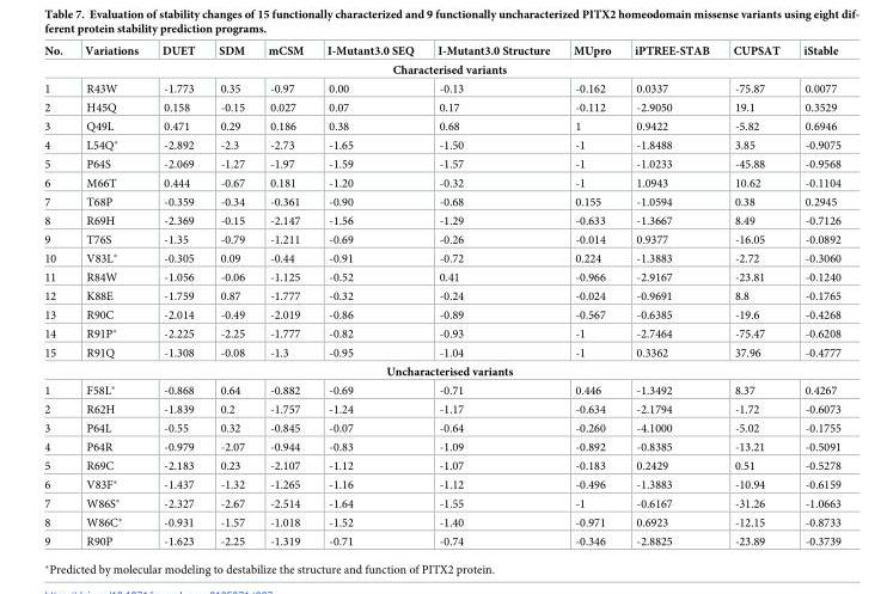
<table><thead><tr><td>No.</td><td>Variations</td><td>DUET</td><td>SDM</td><td>mCSM</td><td>I-Mutant3.0 SEQ</td><td>I-Mutant3.0 Structure</td><td>MUpro</td><td>iPTREE-STAB</td><td>CUPSAT</td><td>iStable</td></tr></thead><tbody><tr><td colspan="11">Characterised variants</td></tr><tr><td>1</td><td>R43W</td><td>-1.773</td><td>0.35</td><td>-0.97</td><td>0.00</td><td>-0.13</td><td>-0.162</td><td>0.0337</td><td>-75.87</td><td>0.0077</td></tr><tr><td>2</td><td>H45Q</td><td>0.158</td><td>-0.15</td><td>0.027</td><td>0.07</td><td>0.17</td><td>-0.112</td><td>-2.9050</td><td>19.1</td><td>0.3529</td></tr><tr><td>3</td><td>Q49L</td><td>0.471</td><td>0.29</td><td>0.186</td><td>0.38</td><td>0.68</td><td>1</td><td>0.9422</td><td>-5.82</td><td>0.6946</td></tr><tr><td>4</td><td>L54Q*</td><td>-2.892</td><td>-2.3</td><td>-2.73</td><td>-1.65</td><td>-1.50</td><td>-1</td><td>-1.8488</td><td>3.85</td><td>-0.9075</td></tr><tr><td>5</td><td>P64S</td><td>-2.069</td><td>-1.27</td><td>-1.97</td><td>-1.59</td><td>-1.57</td><td>-1</td><td>-1.0233</td><td>-45.88</td><td>-0.9568</td></tr><tr><td>6</td><td>M66T</td><td>0.444</td><td>-0.67</td><td>0.181</td><td>-1.20</td><td>-0.32</td><td>-1</td><td>1.0943</td><td>10.62</td><td>-0.1104</td></tr><tr><td>7</td><td>T68P</td><td>-0.359</td><td>-0.34</td><td>-0.361</td><td>-0.90</td><td>-0.68</td><td>0.155</td><td>-1.0594</td><td>0.38</td><td>0.2945</td></tr><tr><td>8</td><td>R69H</td><td>-2.369</td><td>-0.15</td><td>-2.147</td><td>-1.56</td><td>-1.29</td><td>-0.633</td><td>-1.3667</td><td>8.49</td><td>-0.7126</td></tr><tr><td>9</td><td>T76S</td><td>-1.35</td><td>-0.79</td><td>-1.211</td><td>-0.69</td><td>-0.26</td><td>-0.014</td><td>0.9377</td><td>-16.05</td><td>-0.0892</td></tr><tr><td>10</td><td>V83L*</td><td>-0.305</td><td>0.09</td><td>-0.44</td><td>-0.91</td><td>-0.72</td><td>0.224</td><td>-1.3883</td><td>-2.72</td><td>-0.3060</td></tr><tr><td>11</td><td>R84W</td><td>-1.056</td><td>-0.06</td><td>-1.125</td><td>-0.52</td><td>0.41</td><td>-0.966</td><td>-2.9167</td><td>-23.81</td><td>-0.1240</td></tr><tr><td>12</td><td>K88E</td><td>-1.759</td><td>0.87</td><td>-1.777</td><td>-0.32</td><td>-0.24</td><td>-0.024</td><td>-0.9691</td><td>8.8</td><td>-0.1765</td></tr><tr><td>13</td><td>R90C</td><td>-2.014</td><td>-0.49</td><td>-2.019</td><td>-0.86</td><td>-0.89</td><td>-0.567</td><td>-0.6385</td><td>-19.6</td><td>-0.4268</td></tr><tr><td>14</td><td>R91P*</td><td>-2.225</td><td>-2.25</td><td>-1.777</td><td>-0.82</td><td>-0.93</td><td>-1</td><td>-2.7464</td><td>-75.47</td><td>-0.6208</td></tr><tr><td>15</td><td>R91Q</td><td>-1.308</td><td>-0.08</td><td>-1.3</td><td>-0.95</td><td>-1.04</td><td>-1</td><td>0.3362</td><td>37.96</td><td>-0.4777</td></tr><tr><td colspan="11">Uncharacterised variants</td></tr><tr><td>1</td><td>F58L*</td><td>-0.868</td><td>0.64</td><td>-0.882</td><td>-0.69</td><td>-0.71</td><td>0.446</td><td>-1.3492</td><td>8.37</td><td>0.4267</td></tr><tr><td>2</td><td>R62H</td><td>-1.839</td><td>0.2</td><td>-1.757</td><td>-1.24</td><td>-1.17</td><td>-0.634</td><td>-2.1794</td><td>-1.72</td><td>-0.6073</td></tr><tr><td>3</td><td>P64L</td><td>-0.55</td><td>0.32</td><td>-0.845</td><td>-0.07</td><td>-0.64</td><td>-0.260</td><td>-4.1000</td><td>-5.02</td><td>-0.1755</td></tr><tr><td>4</td><td>P64R</td><td>-0.979</td><td>-2.07</td><td>-0.944</td><td>-0.83</td><td>-1.09</td><td>-0.892</td><td>-0.8385</td><td>-13.21</td><td>-0.5091</td></tr><tr><td>5</td><td>R69C</td><td>-2.183</td><td>0.23</td><td>-2.107</td><td>-1.12</td><td>-1.07</td><td>-0.183</td><td>0.2429</td><td>0.51</td><td>-0.5278</td></tr><tr><td>6</td><td>V83F*</td><td>-1.437</td><td>-1.32</td><td>-1.265</td><td>-1.16</td><td>-1.12</td><td>-0.496</td><td>-1.3883</td><td>-10.94</td><td>-0.6159</td></tr><tr><td>7</td><td>W86S*</td><td>-2.327</td><td>-2.67</td><td>-2.514</td><td>-1.64</td><td>-1.55</td><td>-1</td><td>-0.6167</td><td>-31.26</td><td>-1.0663</td></tr><tr><td>8</td><td>W86C*</td><td>-0.931</td><td>-1.57</td><td>-1.018</td><td>-1.52</td><td>-1.40</td><td>-0.971</td><td>0.6923</td><td>-12.15</td><td>-0.8733</td></tr><tr><td>9</td><td>R90P</td><td>-1.623</td><td>-2.25</td><td>-1.319</td><td>-0.71</td><td>-0.74</td><td>-0.346</td><td>-2.8825</td><td>-23.89</td><td>-0.3739</td></tr></tbody></table>